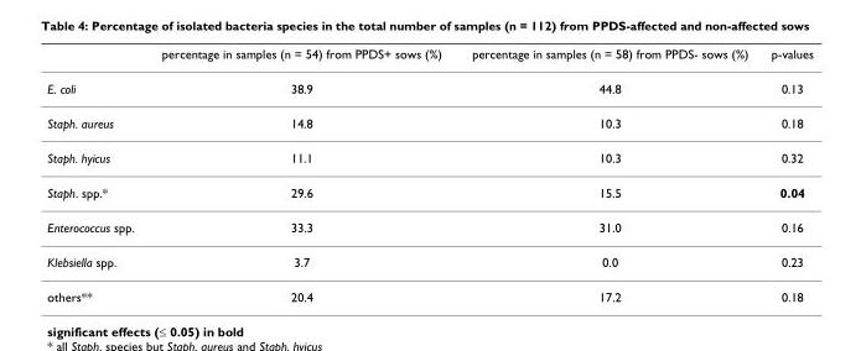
<table><thead><tr><td></td><td>percentage in samples (n = 54) from PPDS+ sows (%)</td><td>percentage in samples (n = 58) from PPDS- sows (%)</td><td>p-values</td></tr></thead><tbody><tr><td>E. coli</td><td>38.9</td><td>44.8</td><td>0.13</td></tr><tr><td>Staph. aureus</td><td>14.8</td><td>10.3</td><td>0.18</td></tr><tr><td>Staph. hyicus</td><td>11.1</td><td>10.3</td><td>0.32</td></tr><tr><td>Staph. spp.*</td><td>29.6</td><td>15.5</td><td>0.04</td></tr><tr><td>Enterococcus spp.</td><td>33.3</td><td>31.0</td><td>0.16</td></tr><tr><td>Klebsiella spp.</td><td>3.7</td><td>0.0</td><td>0.23</td></tr><tr><td>others**</td><td>20.4</td><td>17.2</td><td>0.18</td></tr></tbody></table>